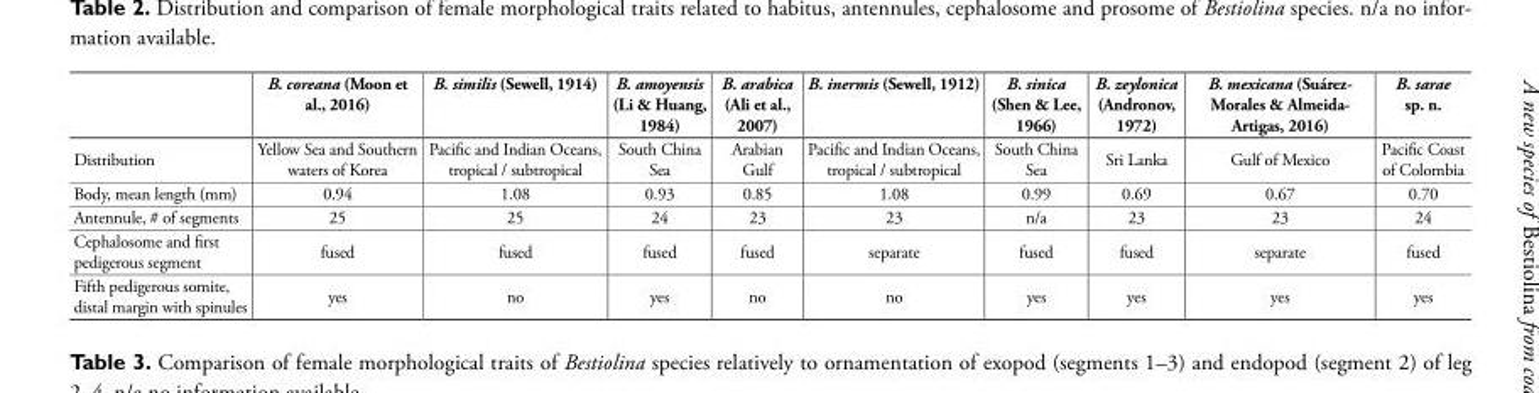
<table><thead><tr><td></td><td>B. coreana (Moon et al., 2016)</td><td>B. similis (Sewell, 1914)</td><td>B. amoyensis (Li &amp; Huang, 1984)</td><td>B. arabica (Ali et al., 2007)</td><td>B. inermis (Sewell, 1912)</td><td>B. sinica (Shen &amp; Lee, 1966)</td><td>B. zeylonica (Andronov, 1972)</td><td>B. mexicana (Suárez- Morales &amp; Almeida- Artigas, 2016)</td><td>B. sarae sp. n.</td></tr></thead><tbody><tr><td>Distribution</td><td>Yellow Sea and Southern waters of Korea</td><td>Pacific and Indian Oceans, tropical / subtropical</td><td>South China Sea</td><td>Arabian Gulf</td><td>Pacific and Indian Oceans, tropical / subtropical</td><td>South China Sea</td><td>Sri Lanka</td><td>Gulf of Mexico</td><td>Pacific Coast of Colombia</td></tr><tr><td>Body, mean length (mm)</td><td>0.94</td><td>1.08</td><td>0.93</td><td>0.85</td><td>1.08</td><td>0.99</td><td>0.69</td><td>0.67</td><td>0.70</td></tr><tr><td>Antennule, # of segments</td><td>25</td><td>25</td><td>24</td><td>23</td><td>23</td><td>n/a</td><td>23</td><td>23</td><td>24</td></tr><tr><td>Cephalosome and first pedigerous segment</td><td>fused</td><td>fused</td><td>fused</td><td>fused</td><td>separate</td><td>fused</td><td>fused</td><td>separate</td><td>fused</td></tr><tr><td>Fifth pedigerous somite, distal margin with spinules</td><td>yes</td><td>no</td><td>yes</td><td>no</td><td>no</td><td>yes</td><td>yes</td><td>yes</td><td>yes</td></tr></tbody></table>